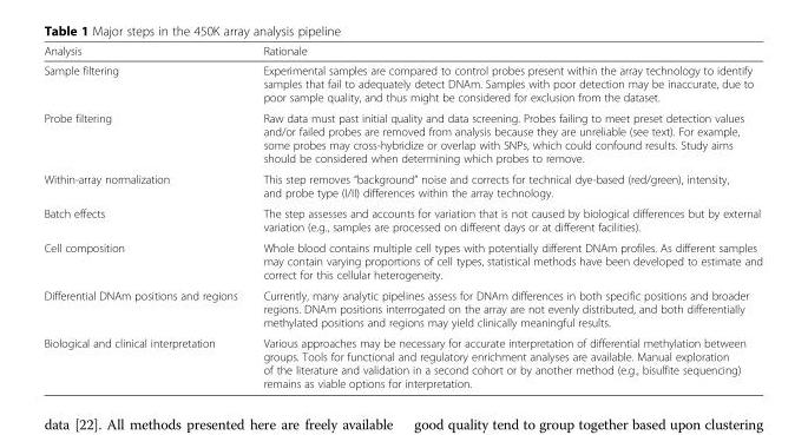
<table><thead><tr><td>Analysis</td><td>Rationale</td></tr></thead><tbody><tr><td>Sample filtering</td><td>Experimental samples are compared to control probes present within the array technology to identify samples that fail to adequately detect DNAm. Samples with poor detection may be inaccurate, due to poor sample quality, and thus might be considered for exclusion from the dataset.</td></tr><tr><td>Probe filtering</td><td>Raw data must past initial quality and data screening. Probes failing to meet preset detection values and/or failed probes are removed from analysis because they are unreliable (see text). For example, some probes may cross-hybridize or overlap with SNPs, which could confound results. Study aims should be considered when determining which probes to remove.</td></tr><tr><td>Within-array normalization</td><td>This step removes “background” noise and corrects for technical dye-based (red/green), intensity, and probe type (I/II) differences within the array technology.</td></tr><tr><td>Batch effects</td><td>The step assesses and accounts for variation that is not caused by biological differences but by external variation (e.g., samples are processed on different days or at different facilities).</td></tr><tr><td>Cell composition</td><td>Whole blood contains multiple cell types with potentially different DNAm profiles. As different samples may contain varying proportions of cell types, statistical methods have been developed to estimate and correct for this cellular heterogeneity.</td></tr><tr><td>Differential DNAm positions and regions</td><td>Currently, many analytic pipelines assess for DNAm differences in both specific positions and broader regions. DNAm positions interrogated on the array are not evenly distributed, and both differentially methylated positions and regions may yield clinically meaningful results.</td></tr><tr><td>Biological and clinical interpretation</td><td>Various approaches may be necessary for accurate interpretation of differential methylation between groups. Tools for functional and regulatory enrichment analyses are available. Manual exploration of the literature and validation in a second cohort or by another method (e.g., bisulfite sequencing) remains as viable options for interpretation.</td></tr></tbody></table>